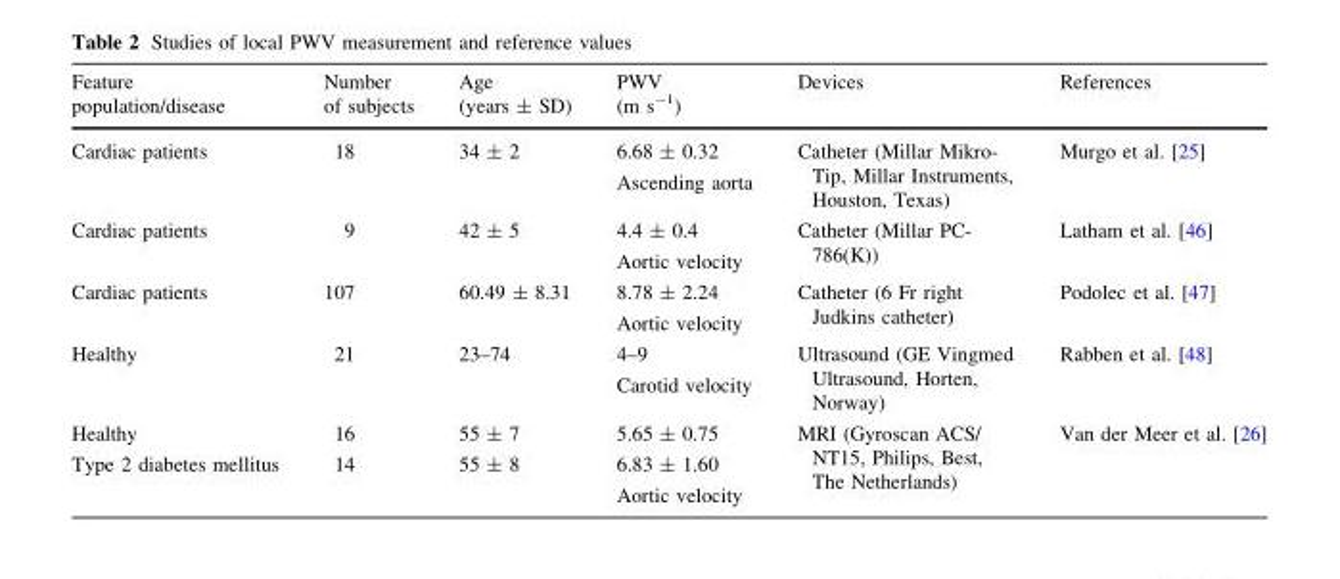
<table><thead><tr><td>Feature population/disease</td><td>Number of subjects</td><td>Age (years ± SD)</td><td>PWV (m s<sup>-1</sup>)</td><td>Devices</td><td>References</td></tr></thead><tbody><tr><td>Cardiac patients</td><td>18</td><td>34 ± 2</td><td>6.68 ± 0.32 Ascending aorta</td><td>Catheter (Millar Mikro- Tip, Millar Instruments, Houston, Texas)</td><td>Murgo et al. [25]</td></tr><tr><td>Cardiac patients</td><td>9</td><td>42 ± 5</td><td>4.4 ± 0.4 Aortic velocity</td><td>Catheter (Millar PC- 786(K))</td><td>Latham et al. [46]</td></tr><tr><td>Cardiac patients</td><td>107</td><td>60.49 ± 8.31</td><td>8.78 ± 2.24 Aortic velocity</td><td>Catheter (6 Fr right Judkins catheter)</td><td>Podolec et al. [47]</td></tr><tr><td>Healthy</td><td>21</td><td>23–74</td><td>4–9 Carotid velocity</td><td>Ultrasound (GE Vingmed Ultrasound, Horten, Norway)</td><td>Rabben et al. [48]</td></tr><tr><td>Healthy</td><td>16</td><td>55 ± 7</td><td>5.65 ± 0.75</td><td rowspan="2">MRI (Gyroscan ACS/ NT15, Philips, Best, The Netherlands)</td><td rowspan="2">Van der Meer et al. [26]</td></tr><tr><td>Type 2 diabetes mellitus</td><td>14</td><td>55 ± 8</td><td>6.83 ± 1.60 Aortic velocity</td></tr></tbody></table>